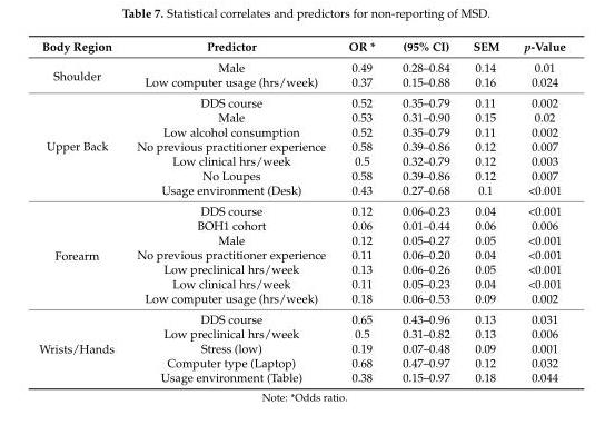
<table><thead><tr><td>Body Region</td><td>Predictor</td><td>OR *</td><td>(95% CI)</td><td>SEM</td><td>p-Value</td></tr></thead><tbody><tr><td rowspan="2">Shoulder</td><td>Male</td><td>0.49</td><td>0.28–0.84</td><td>0.14</td><td>0.01</td></tr><tr><td>Low computer usage (hrs/week)</td><td>0.37</td><td>0.15–0.88</td><td>0.16</td><td>0.024</td></tr><tr><td rowspan="7">Upper Back</td><td>DDS course</td><td>0.52</td><td>0.35–0.79</td><td>0.11</td><td>0.002</td></tr><tr><td>Male</td><td>0.53</td><td>0.31–0.90</td><td>0.15</td><td>0.02</td></tr><tr><td>Low alcohol consumption</td><td>0.52</td><td>0.35–0.79</td><td>0.11</td><td>0.002</td></tr><tr><td>No previous practitioner experience</td><td>0.58</td><td>0.39–0.86</td><td>0.12</td><td>0.007</td></tr><tr><td>Low clinical hrs/week</td><td>0.5</td><td>0.32–0.79</td><td>0.12</td><td>0.003</td></tr><tr><td>No Loupes</td><td>0.58</td><td>0.39–0.86</td><td>0.12</td><td>0.007</td></tr><tr><td>Usage environment (Desk)</td><td>0.43</td><td>0.27–0.68</td><td>0.1</td><td>&lt;0.001</td></tr><tr><td rowspan="7">Forearm</td><td>DDS course</td><td>0.12</td><td>0.06–0.23</td><td>0.04</td><td>&lt;0.001</td></tr><tr><td>BOH1 cohort</td><td>0.06</td><td>0.01–0.44</td><td>0.06</td><td>0.006</td></tr><tr><td>Male</td><td>0.12</td><td>0.05–0.27</td><td>0.05</td><td>&lt;0.001</td></tr><tr><td>No previous practitioner experience</td><td>0.11</td><td>0.06–0.20</td><td>0.04</td><td>&lt;0.001</td></tr><tr><td>Low preclinical hrs/week</td><td>0.13</td><td>0.06–0.26</td><td>0.05</td><td>&lt;0.001</td></tr><tr><td>Low clinical hrs/week</td><td>0.11</td><td>0.05–0.23</td><td>0.04</td><td>&lt;0.001</td></tr><tr><td>Low computer usage (hrs/week)</td><td>0.18</td><td>0.06–0.53</td><td>0.09</td><td>0.002</td></tr><tr><td rowspan="5">Wrists/Hands</td><td>DDS course</td><td>0.65</td><td>0.43–0.96</td><td>0.13</td><td>0.031</td></tr><tr><td>Low preclinical hrs/week</td><td>0.5</td><td>0.31–0.82</td><td>0.13</td><td>0.006</td></tr><tr><td>Stress (low)</td><td>0.19</td><td>0.07–0.48</td><td>0.09</td><td>0.001</td></tr><tr><td>Computer type (Laptop)</td><td>0.68</td><td>0.47–0.97</td><td>0.12</td><td>0.032</td></tr><tr><td>Usage environment (Table)</td><td>0.38</td><td>0.15–0.97</td><td>0.18</td><td>0.044</td></tr></tbody></table>